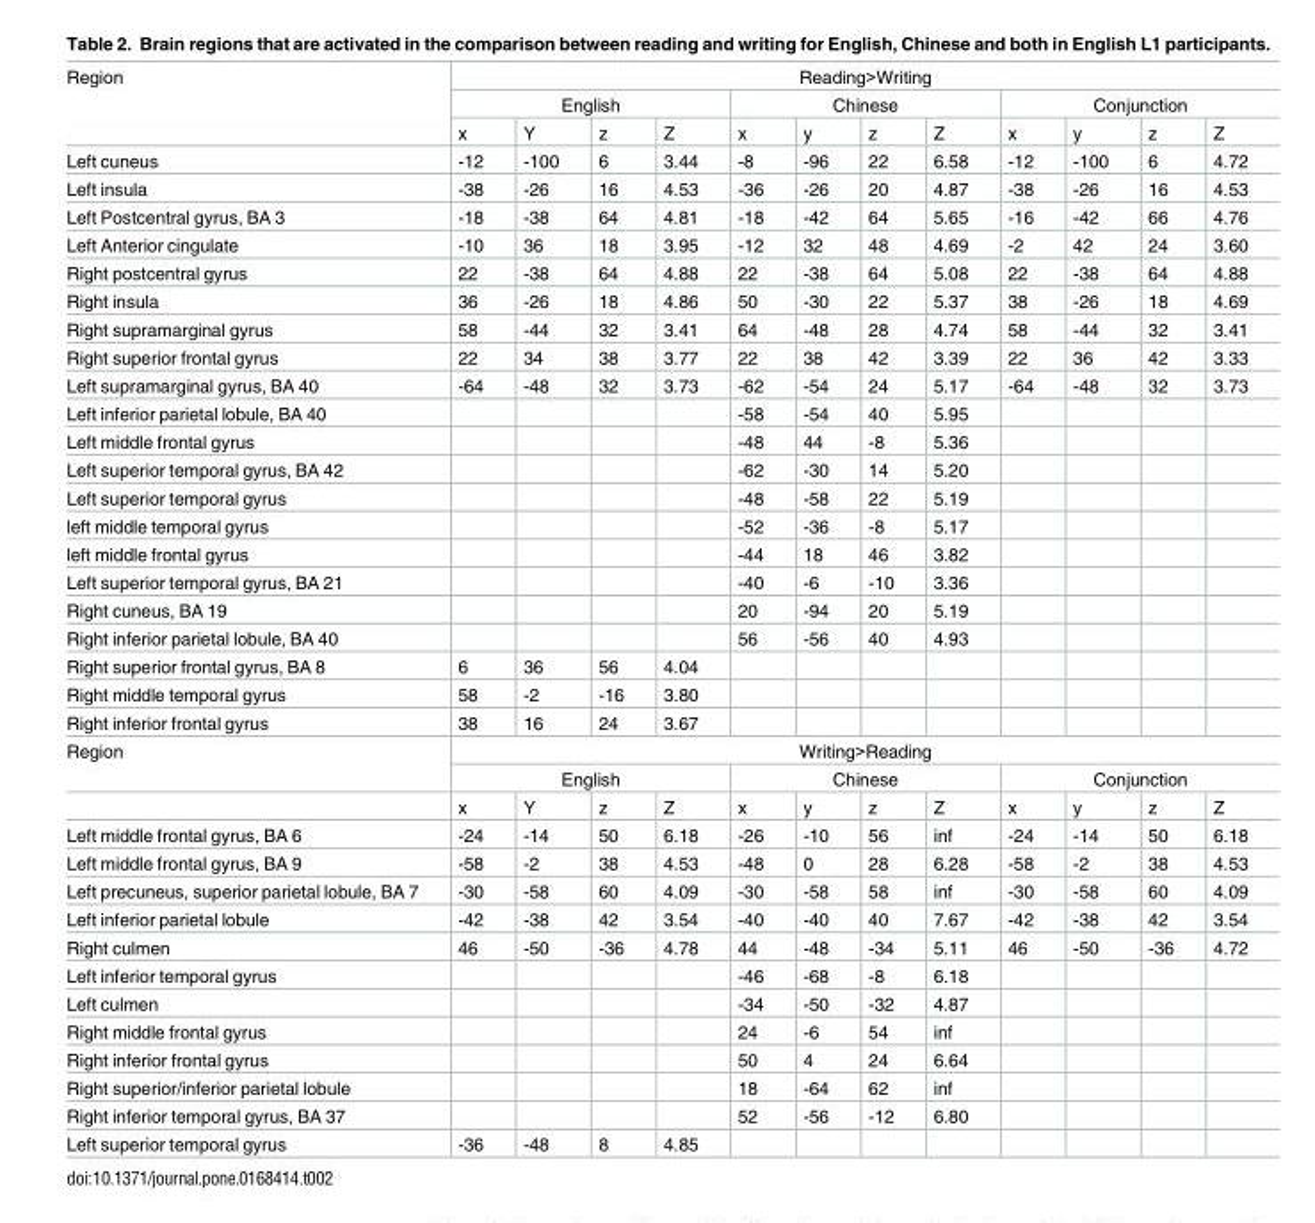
<table><tbody><tr><td rowspan="3">Region</td><td colspan="12">Reading&gt;Writing</td></tr><tr><td colspan="4">English</td><td colspan="4">Chinese</td><td colspan="4">Conjunction</td></tr><tr><td>x</td><td>Y</td><td>z</td><td>Z</td><td>x</td><td>y</td><td>z</td><td>Z</td><td>x</td><td>y</td><td>z</td><td>Z</td></tr><tr><td>Left cuneus</td><td>-12</td><td>-100</td><td>6</td><td>3.44</td><td>-8</td><td>-96</td><td>22</td><td>6.58</td><td>-12</td><td>-100</td><td>6</td><td>4.72</td></tr><tr><td>Left insula</td><td>-38</td><td>-26</td><td>16</td><td>4.53</td><td>-36</td><td>-26</td><td>20</td><td>4.87</td><td>-38</td><td>-26</td><td>16</td><td>4.53</td></tr><tr><td>Left Postcentral gyrus, BA 3</td><td>-18</td><td>-38</td><td>64</td><td>4.81</td><td>-18</td><td>-42</td><td>64</td><td>5.65</td><td>-16</td><td>-42</td><td>66</td><td>4.76</td></tr><tr><td>Left Anterior cingulate</td><td>-10</td><td>36</td><td>18</td><td>3.95</td><td>-12</td><td>32</td><td>48</td><td>4.69</td><td>-2</td><td>42</td><td>24</td><td>3.60</td></tr><tr><td>Right postcentral gyrus</td><td>22</td><td>-38</td><td>64</td><td>4.88</td><td>22</td><td>-38</td><td>64</td><td>5.08</td><td>22</td><td>-38</td><td>64</td><td>4.88</td></tr><tr><td>Right insula</td><td>36</td><td>-26</td><td>18</td><td>4.86</td><td>50</td><td>-30</td><td>22</td><td>5.37</td><td>38</td><td>-26</td><td>18</td><td>4.69</td></tr><tr><td>Right supramarginal gyrus</td><td>58</td><td>-44</td><td>32</td><td>3.41</td><td>64</td><td>-48</td><td>28</td><td>4.74</td><td>58</td><td>-44</td><td>32</td><td>3.41</td></tr><tr><td>Right superior frontal gyrus</td><td>22</td><td>34</td><td>38</td><td>3.77</td><td>22</td><td>38</td><td>42</td><td>3.39</td><td>22</td><td>36</td><td>42</td><td>3.33</td></tr><tr><td>Left supramarginal gyrus, BA 40</td><td>-64</td><td>-48</td><td>32</td><td>3.73</td><td>-62</td><td>-54</td><td>24</td><td>5.17</td><td>-64</td><td>-48</td><td>32</td><td>3.73</td></tr><tr><td>Left inferior parietal lobule, BA 40</td><td></td><td></td><td></td><td></td><td>-58</td><td>-54</td><td>40</td><td>5.95</td><td></td><td></td><td></td><td></td></tr><tr><td>Left middle frontal gyrus</td><td></td><td></td><td></td><td></td><td>-48</td><td>44</td><td>-8</td><td>5.36</td><td></td><td></td><td></td><td></td></tr><tr><td>Left superior temporal gyrus, BA 42</td><td></td><td></td><td></td><td></td><td>-62</td><td>-30</td><td>14</td><td>5.20</td><td></td><td></td><td></td><td></td></tr><tr><td>Left superior temporal gyrus</td><td></td><td></td><td></td><td></td><td>-48</td><td>-58</td><td>22</td><td>5.19</td><td></td><td></td><td></td><td></td></tr><tr><td>left middle temporal gyrus</td><td></td><td></td><td></td><td></td><td>-52</td><td>-36</td><td>-8</td><td>5.17</td><td></td><td></td><td></td><td></td></tr><tr><td>left middle frontal gyrus</td><td></td><td></td><td></td><td></td><td>-44</td><td>18</td><td>46</td><td>3.82</td><td></td><td></td><td></td><td></td></tr><tr><td>Left superior temporal gyrus, BA 21</td><td></td><td></td><td></td><td></td><td>-40</td><td>-6</td><td>-10</td><td>3.36</td><td></td><td></td><td></td><td></td></tr><tr><td>Right cuneus, BA 19</td><td></td><td></td><td></td><td></td><td>20</td><td>-94</td><td>20</td><td>5.19</td><td></td><td></td><td></td><td></td></tr><tr><td>Right inferior parietal lobule, BA 40</td><td></td><td></td><td></td><td></td><td>56</td><td>-56</td><td>40</td><td>4.93</td><td></td><td></td><td></td><td></td></tr><tr><td>Right superior frontal gyrus, BA 8</td><td>6</td><td>36</td><td>56</td><td>4.04</td><td></td><td></td><td></td><td></td><td></td><td></td><td></td><td></td></tr><tr><td>Right middle temporal gyrus</td><td>58</td><td>-2</td><td>-16</td><td>3.80</td><td></td><td></td><td></td><td></td><td></td><td></td><td></td><td></td></tr><tr><td>Right inferior frontal gyrus</td><td>38</td><td>16</td><td>24</td><td>3.67</td><td></td><td></td><td></td><td></td><td></td><td></td><td></td><td></td></tr><tr><td rowspan="3">Region</td><td colspan="12">Writing&gt;Reading</td></tr><tr><td colspan="4">English</td><td colspan="4">Chinese</td><td colspan="4">Conjunction</td></tr><tr><td>x</td><td>Y</td><td>z</td><td>Z</td><td>x</td><td>y</td><td>z</td><td>Z</td><td>x</td><td>y</td><td>z</td><td>Z</td></tr><tr><td>Left middle frontal gyrus, BA 6</td><td>-24</td><td>-14</td><td>50</td><td>6.18</td><td>-26</td><td>-10</td><td>56</td><td>inf</td><td>-24</td><td>-14</td><td>50</td><td>6.18</td></tr><tr><td>Left middle frontal gyrus, BA 9</td><td>-58</td><td>-2</td><td>38</td><td>4.53</td><td>-48</td><td>0</td><td>28</td><td>6.28</td><td>-58</td><td>-2</td><td>38</td><td>4.53</td></tr><tr><td>Left precuneus, superior parietal lobule, BA 7</td><td>-30</td><td>-58</td><td>60</td><td>4.09</td><td>-30</td><td>-58</td><td>58</td><td>inf</td><td>-30</td><td>-58</td><td>60</td><td>4.09</td></tr><tr><td>Left inferior parietal lobule</td><td>-42</td><td>-38</td><td>42</td><td>3.54</td><td>-40</td><td>-40</td><td>40</td><td>7.67</td><td>-42</td><td>-38</td><td>42</td><td>3.54</td></tr><tr><td>Right culmen</td><td>46</td><td>-50</td><td>-36</td><td>4.78</td><td>44</td><td>-48</td><td>-34</td><td>5.11</td><td>46</td><td>-50</td><td>-36</td><td>4.72</td></tr><tr><td>Left inferior temporal gyrus</td><td></td><td></td><td></td><td></td><td>-46</td><td>-68</td><td>-8</td><td>6.18</td><td></td><td></td><td></td><td></td></tr><tr><td>Left culmen</td><td></td><td></td><td></td><td></td><td>-34</td><td>-50</td><td>-32</td><td>4.87</td><td></td><td></td><td></td><td></td></tr><tr><td>Right middle frontal gyrus</td><td></td><td></td><td></td><td></td><td>24</td><td>-6</td><td>54</td><td>inf</td><td></td><td></td><td></td><td></td></tr><tr><td>Right inferior frontal gyrus</td><td></td><td></td><td></td><td></td><td>50</td><td>4</td><td>24</td><td>6.64</td><td></td><td></td><td></td><td></td></tr><tr><td>Right superior/inferior parietal lobule</td><td></td><td></td><td></td><td></td><td>18</td><td>-64</td><td>62</td><td>inf</td><td></td><td></td><td></td><td></td></tr><tr><td>Right inferior temporal gyrus, BA 37</td><td></td><td></td><td></td><td></td><td>52</td><td>-56</td><td>-12</td><td>6.80</td><td></td><td></td><td></td><td></td></tr><tr><td>Left superior temporal gyrus</td><td>-36</td><td>-48</td><td>8</td><td>4.85</td><td></td><td></td><td></td><td></td><td></td><td></td><td></td><td></td></tr></tbody></table>